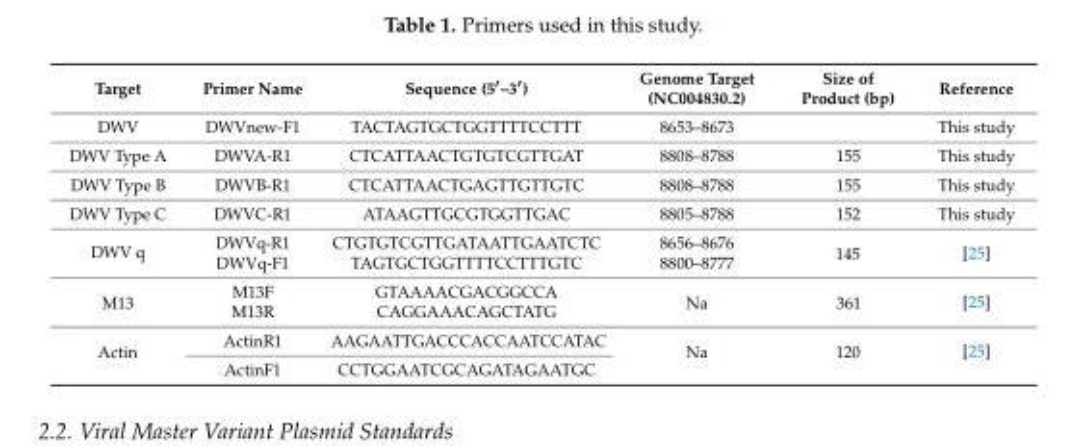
<table><thead><tr><td>Target</td><td>Primer Name</td><td>Sequence (5′–3′)</td><td>Genome Target (NC004830.2)</td><td>Size of Product (bp)</td><td>Reference</td></tr></thead><tbody><tr><td>DWV</td><td>DWVnew-F1</td><td>TACTAGTGCTGGTTTTCCTTT</td><td>8653–8673</td><td></td><td>This study</td></tr><tr><td>DWV Type A</td><td>DWVA-R1</td><td>CTCATTAACTGTGTCGTTGAT</td><td>8808–8788</td><td>155</td><td>This study</td></tr><tr><td>DWV Type B</td><td>DWVB-R1</td><td>CTCATTAACTGAGTTGTTGTC</td><td>8808–8788</td><td>155</td><td>This study</td></tr><tr><td>DWV Type C</td><td>DWVC-R1</td><td>ATAAGTTGCGTGGTTGAC</td><td>8805–8788</td><td>152</td><td>This study</td></tr><tr><td rowspan="2">DWV q</td><td>DWVq-R1</td><td>CTGTGTCGTTGATAATTGAATCTC</td><td>8656–8676</td><td rowspan="2">145</td><td rowspan="2">[25]</td></tr><tr><td>DWVq-F1</td><td>TAGTGCTGGTTTTCCTTTGTC</td><td>8800–8777</td></tr><tr><td rowspan="2">M13</td><td>M13F</td><td>GTAAAACGACGGCCA</td><td rowspan="2">Na</td><td rowspan="2">361</td><td rowspan="2">[25]</td></tr><tr><td>M13R</td><td>CAGGAAACAGCTATG</td></tr><tr><td rowspan="2">Actin</td><td>ActinR1</td><td>AAGAATTGACCCACCAATCCATAC</td><td rowspan="2">Na</td><td rowspan="2">120</td><td rowspan="2">[25]</td></tr><tr><td>ActinF1</td><td>CCTGGAATCGCAGATAGAATGC</td></tr></tbody></table>